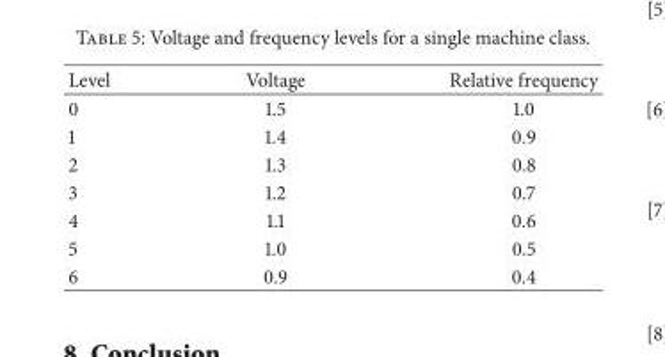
<table><thead><tr><td>Level</td><td>Voltage</td><td>Relative frequency</td></tr></thead><tbody><tr><td>0</td><td>1.5</td><td>1.0</td></tr><tr><td>1</td><td>1.4</td><td>0.9</td></tr><tr><td>2</td><td>1.3</td><td>0.8</td></tr><tr><td>3</td><td>1.2</td><td>0.7</td></tr><tr><td>4</td><td>1.1</td><td>0.6</td></tr><tr><td>5</td><td>1.0</td><td>0.5</td></tr><tr><td>6</td><td>0.9</td><td>0.4</td></tr></tbody></table>